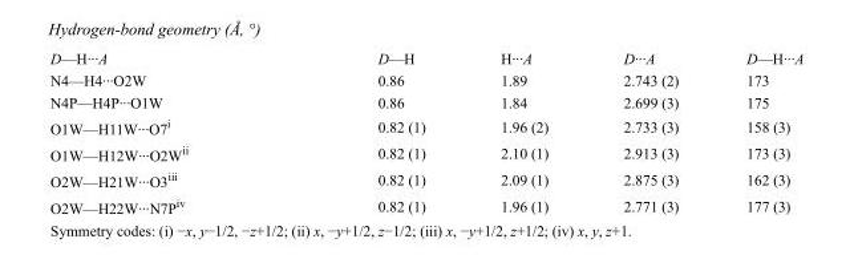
<table><tbody><tr><td>D—H···A</td><td>D—H</td><td>H···A</td><td>D···A</td><td>D—H···A</td></tr><tr><td>N4—H4···O2W</td><td>0.86</td><td>1.89</td><td>2.743 (2)</td><td>173</td></tr><tr><td>N4P—H4P···O1W</td><td>0.86</td><td>1.84</td><td>2.699 (3)</td><td>175</td></tr><tr><td>O1W—H11W···O7<sup>i</sup></td><td>0.82 (1)</td><td>1.96 (2)</td><td>2.733 (3)</td><td>158 (3)</td></tr><tr><td>O1W—H12W···O2W<sup>ii</sup></td><td>0.82 (1)</td><td>2.10 (1)</td><td>2.913 (3)</td><td>173 (3)</td></tr><tr><td>O2W—H21W···O3<sup>iii</sup></td><td>0.82 (1)</td><td>2.09 (1)</td><td>2.875 (3)</td><td>162 (3)</td></tr><tr><td>O2W—H22W···N7P<sup>iv</sup></td><td>0.82 (1)</td><td>1.96 (1)</td><td>2.771 (3)</td><td>177 (3)</td></tr></tbody></table>